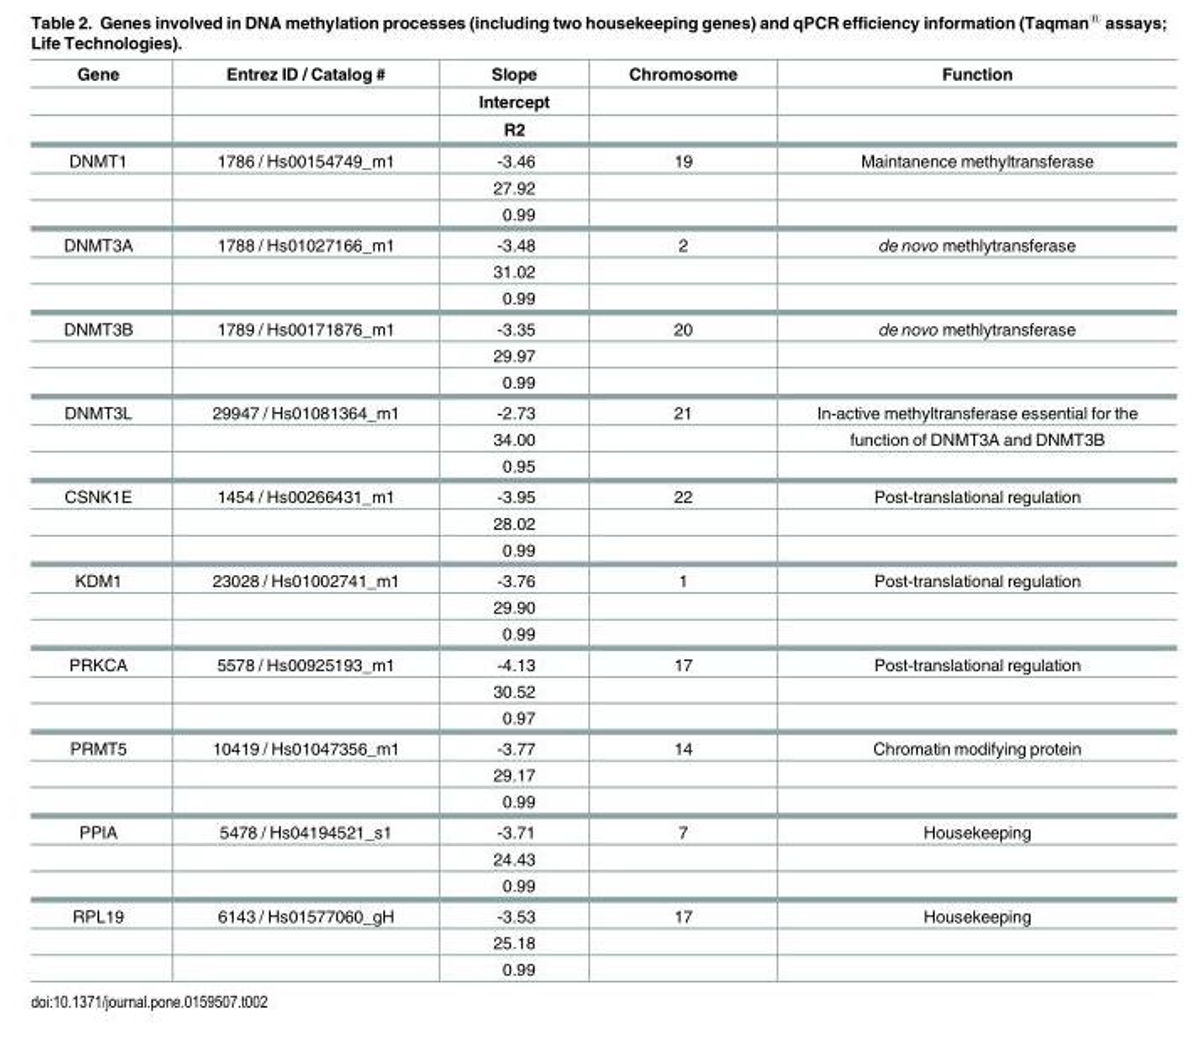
<table><thead><tr><td rowspan="3">Gene</td><td rowspan="3">Entrez ID / Catalog #</td><td rowspan="3">Slope Intercept R2</td><td rowspan="3">Chromosome</td><td rowspan="3">Function</td></tr><tr></tr><tr></tr></thead><tbody><tr><td rowspan="3">DNMT1</td><td>1786 / Hs00154749_m1</td><td>-3.46</td><td>19</td><td>Maintanence methyltransferase</td></tr><tr><td></td><td>27.92</td><td></td><td></td></tr><tr><td></td><td>0.99</td><td></td><td></td></tr><tr><td rowspan="3">DNMT3A</td><td>1788 / Hs01027166_m1</td><td>-3.48</td><td>2</td><td>de novo methlytransferase</td></tr><tr><td></td><td>31.02</td><td></td><td></td></tr><tr><td></td><td>0.99</td><td></td><td></td></tr><tr><td rowspan="3">DNMT3B</td><td>1789 / Hs00171876_m1</td><td>-3.35</td><td>20</td><td>de novo methlytransferase</td></tr><tr><td></td><td>29.97</td><td></td><td></td></tr><tr><td></td><td>0.99</td><td></td><td></td></tr><tr><td rowspan="3">DNMT3L</td><td>29947 / Hs01081364_m1</td><td>-2.73</td><td>21</td><td>In-active methyltransferase essential for the</td></tr><tr><td></td><td>34.00</td><td></td><td>function of DNMT3A and DNMT3B</td></tr><tr><td></td><td>0.95</td><td></td><td></td></tr><tr><td rowspan="3">CSNK1E</td><td>1454 / Hs00266431_m1</td><td>-3.95</td><td>22</td><td>Post-translational regulation</td></tr><tr><td></td><td>28.02</td><td></td><td></td></tr><tr><td></td><td>0.99</td><td></td><td></td></tr><tr><td rowspan="3">KDM1</td><td>23028 / Hs01002741_m1</td><td>-3.76</td><td>1</td><td>Post-translational regulation</td></tr><tr><td></td><td>29.90</td><td></td><td></td></tr><tr><td></td><td>0.99</td><td></td><td></td></tr><tr><td rowspan="3">PRKCA</td><td>5578 / Hs00925193_m1</td><td>-4.13</td><td>17</td><td>Post-translational regulation</td></tr><tr><td></td><td>30.52</td><td></td><td></td></tr><tr><td></td><td>0.97</td><td></td><td></td></tr><tr><td rowspan="3">PRMT5</td><td>10419 / Hs01047356_m1</td><td>-3.77</td><td>14</td><td>Chromatin modifying protein</td></tr><tr><td></td><td>29.17</td><td></td><td></td></tr><tr><td></td><td>0.99</td><td></td><td></td></tr><tr><td rowspan="3">PPIA</td><td>5478 / Hs04194521_s1</td><td>-3.71</td><td>7</td><td>Housekeeping</td></tr><tr><td></td><td>24.43</td><td></td><td></td></tr><tr><td></td><td>0.99</td><td></td><td></td></tr><tr><td rowspan="3">RPL19</td><td>6143 / Hs01577060_gH</td><td>-3.53</td><td>17</td><td>Housekeeping</td></tr><tr><td></td><td>25.18</td><td></td><td></td></tr><tr><td></td><td>0.99</td><td></td><td></td></tr></tbody></table>